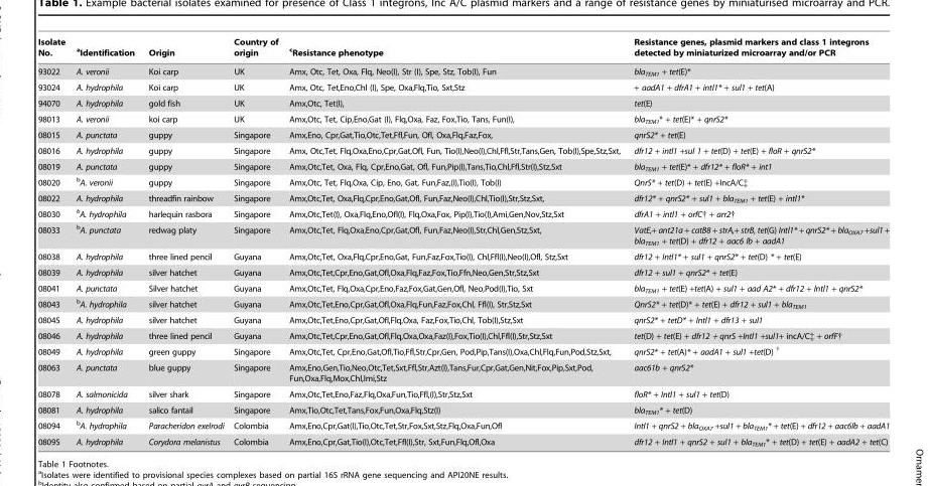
<table><thead><tr><td>Isolate No.</td><td>aIdentification</td><td>Origin</td><td>Country of origin</td><td>cResistance phenotype</td><td>Resistance genes, plasmid markers and class 1 integrons detected by miniaturized microarray and/or PCR</td></tr></thead><tbody><tr><td>93022</td><td>A. veronii</td><td>Koi carp</td><td>UK</td><td>Amx, Otc, Tet, Oxa, Flq, Neo(I), Str (I), Spe, Stz, Tob(I), Fun</td><td>bla<sub>TEM1</sub> + tet(E)*</td></tr><tr><td>93024</td><td>A. hydrophila</td><td>Koi carp</td><td>UK</td><td>Amx, Otc, Tet,Eno,Chl (I), Spe, Oxa,Flq,Tio, Sxt,Stz</td><td>+ aadA1 + dfrA1 + intl1* + sul1 + tet(A)</td></tr><tr><td>94070</td><td>A. hydrophila</td><td>gold fish</td><td>UK</td><td>Amx,Otc, Tet(I),</td><td>tet(E)</td></tr><tr><td>98013</td><td>A. veronii</td><td>koi carp</td><td>UK</td><td>Amx,Otc, Tet, Cip,Eno,Gat (I), Flq,Oxa, Faz, Fox,Tio, Tans, Fun(I),</td><td>bla<sub>TEM1</sub>* + tet(E)* + qnrS2*</td></tr><tr><td>08015</td><td>A. punctata</td><td>guppy</td><td>Singapore</td><td>Amx,Eno, Cpr,Gat,Tio,Otc,Tet,Ffl,Fun, Ofl, Oxa,Flq,Faz,Fox,</td><td>qnrS2* + tet(E)</td></tr><tr><td>08016</td><td>A. hydrophila</td><td>guppy</td><td>Singapore</td><td>Amx, Otc,Tet, Flq,Oxa,Eno,Cpr,Gat,Ofl, Fun, Tio(I),Neo(I),Chl,Ffl,Str,Tans,Gen, Tob(I),Spe,Stz,Sxt,</td><td>dfr12 + intl1 +sul 1 + tet(D) + tet(E) + floR + qnrS2*</td></tr><tr><td>08019</td><td>A. punctata</td><td>guppy</td><td>Singapore</td><td>Amx,Otc,Tet, Oxa, Flq, Cpr,Eno,Gat, Ofl, Fun,Pip(I),Tans,Tio,Chl,Ffl,Str(I),Stz,Sxt</td><td>bla<sub>TEM1</sub> + tet(E)* + dfr12* + floR* + int1</td></tr><tr><td>08020</td><td>bA. veronii</td><td>guppy</td><td>Singapore</td><td>Amx,Otc, Tet, Flq,Oxa, Cip, Eno, Gat, Fun,Faz,(I),Tio(I), Tob(I)</td><td>QnrS* + tet(D) + tet(E) +IncA/C‡</td></tr><tr><td>08022</td><td>A. hydrophila</td><td>threadfin rainbow</td><td>Singapore</td><td>Amx,Otc,Tet, Oxa,Flq,Cpr,Eno,Gat,Ofl, Fun,Faz,Neo(I),Chl,Tio(I),Str,Stz,Sxt,</td><td>dfr12* + qnrS2* + sul1 + bla<sub>TEM1</sub> + tet(E) + intl1*</td></tr><tr><td>08030</td><td>bA. hydrophila</td><td>harlequin rasbora</td><td>Singapore</td><td>Amx,Otc,Tet(I), Oxa,Flq,Eno,Ofl(I), Flq,Oxa,Fox, Pip(I),Tio(I),Ami,Gen,Nov,Stz,Sxt</td><td>dfrA1 + intl1 + orfC† + arr2†</td></tr><tr><td>08033</td><td>bA. punctata</td><td>redwag platy</td><td>Singapore</td><td>Amx,Otc,Tet, Flq,Oxa,Eno,Cpr,Gat,Ofl, Fun,Faz,Neo(I),Str,Chl,Gen,Stz,Sxt,</td><td>VatE,+ ant21a + catB8 + strA,+ strB, tet(G) Intl1* + qnrS2* + bla<sub>OXA7</sub> +sul1 + bla<sub>TEM1</sub> + tet(D) + dfr12 + aac6 lb + aadA1</td></tr><tr><td>08038</td><td>A. hydrophila</td><td>three lined pencil</td><td>Guyana</td><td>Amx,Otc,Tet, Oxa,Flq,Cpr,Eno,Gat, Fun,Faz,Fox,Tio(I), Chl,Ffl(I),Neo(I),Ofl, Stz,Sxt</td><td>dfr12 + Intl1* + sul1 + qnrS2* + tet(D) * + tet(E)</td></tr><tr><td>08039</td><td>A. hydrophila</td><td>silver hatchet</td><td>Guyana</td><td>Amx,Otc,Tet,Cpr,Eno,Gat,Ofl,Oxa,Flq,Faz,Fox,Tio,Ffn,Neo,Gen,Str,Stz,Sxt</td><td>dfr12 + sul1 + qnrS2* + tet(E)</td></tr><tr><td>08041</td><td>A. punctata</td><td>Silver hatchet</td><td>Guyana</td><td>Amx,Otc,Tet, Flq,Oxa,Cpr,Eno,Faz,Fox,Gat,Gen,Ofl, Neo,Pod(I),Tio, Sxt</td><td>bla<sub>TEM1</sub> + tet(E) +tet(A) + sul1 + aad A2* + dfr12 + Intl1 + qnrS2*</td></tr><tr><td>08043</td><td>bA. hydrophila</td><td>silver hatchet</td><td>Guyana</td><td>Amx,Otc,Tet,Eno,Cpr,Gat,Ofl,Oxa,Flq,Fun,Faz,Fox,Chl, Ffl(I), Str,Stz,Sxt</td><td>QnrS2* + tet(D)* + tet(E) + dfr12 + sul1 + bla<sub>TEM1</sub></td></tr><tr><td>08045</td><td>A. hydrophila</td><td>silver hatchet</td><td>Guyana</td><td>Amx,Otc,Tet,Eno,Cpr,Gat,Ofl,Flq,Oxa, Faz,Fox,Tio,Chl, Tob(I),Stz,Sxt</td><td>qnrS2* + tetD* + Intl1 + dfr13 + sul1</td></tr><tr><td>08046</td><td>A. hydrophila</td><td>three lined pencil</td><td>Guyana</td><td>Amx,Otc,Tet,Cpr,Eno,Gat,Ofl,Flq,Oxa,Oxa,Faz(I),Fox,Tio(I),Chl,Ffl(I),Str,Stz,Sxt</td><td>tet(D) + tet(E) + dfr12 + qnrS +Intl1 +sul1+ incA/C‡ + orfF†</td></tr><tr><td>08049</td><td>A. hydrophila</td><td>green guppy</td><td>Singapore</td><td>Amx,Otc,Tet, Cpr,Eno,Gat,Ofl,Tio,Ffl,Str,Cpr,Gen, Pod,Pip,Tans(I),Oxa,Chl,Flq,Fun,Pod,Stz,Sxt,</td><td>qnrS2* + tet(A)* + aadA1 + sul1 +tet(D) †</td></tr><tr><td>08063</td><td>A. punctata</td><td>blue guppy</td><td>Singapore</td><td>Amx,Eno,Gen,Tio,Neo,Otc,Tet,Sxt,Ffl,Str,Azt(I),Tans,Fur,Cpr,Gat,Gen,Nit,Fox,Pip,Sxt,Pod, Fun,Oxa,Flq,Mox,Chl,Imi,Stz</td><td>aac61b + qnrS2*</td></tr><tr><td>08078</td><td>A. salmonicida</td><td>silver shark</td><td>Singapore</td><td>Amx,Otc,Tet,Eno,Faz,Flq,Oxa,Fun,Tio,Ffl,(I),Str,Stz,Sxt</td><td>floR* + Intl1 + sul1 + tet(D)</td></tr><tr><td>08081</td><td>A. hydrophila</td><td>salico fantail</td><td>Singapore</td><td>Amx,Tio,Otc,Tet,Tans,Fox,Fun,Oxa,Flq,Stz(I)</td><td>bla<sub>TEM1</sub>* + tet(D)</td></tr><tr><td>08094</td><td>bA. hydrophila</td><td>Paracheridon exelrodi</td><td>Colombia</td><td>Amx,Eno,Cpr,Gat(I),Tio,Otc,Tet,Str,Fox,Sxt,Stz,Flq,Oxa,Fun,Ofl</td><td>Intl1 + qnrS2 + bla<sub>OXA7</sub> +sul1 + bla<sub>TEM1</sub>* + tet(E) + dfr12 + aac6lb + aadA1</td></tr><tr><td>08095</td><td>A. hydrophila</td><td>Corydora melanistus</td><td>Colombia</td><td>Amx,Eno,Cpr,Gat,Tio(I),Otc,Tet,Ffl(I),Str, Sxt,Fun,Flq,Ofl,Oxa</td><td>dfr12 + Intl1 + qnrS2 + sul1 + bla<sub>TEM1</sub>* + tet(D) + tet(E) + aadA2 + tet(C)</td></tr></tbody></table>